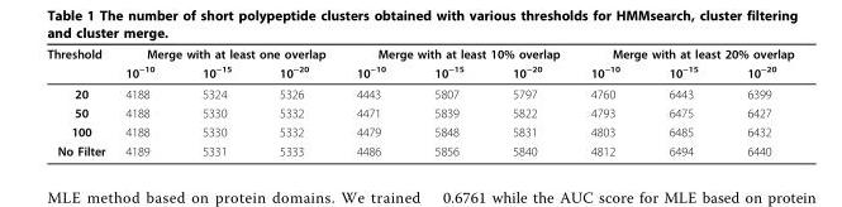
<table><thead><tr><td rowspan="2">Threshold</td><td colspan="3">Merge with at least one overlap</td><td colspan="3">Merge with at least 10% overlap</td><td colspan="3">Merge with at least 20% overlap</td></tr><tr><td>10<sup>−10</sup></td><td>10<sup>−15</sup></td><td>10<sup>−20</sup></td><td>10<sup>−10</sup></td><td>10<sup>−15</sup></td><td>10<sup>−20</sup></td><td>10<sup>−10</sup></td><td>10<sup>−15</sup></td><td>10<sup>−20</sup></td></tr></thead><tbody><tr><td>20</td><td>4188</td><td>5324</td><td>5326</td><td>4443</td><td>5807</td><td>5797</td><td>4760</td><td>6443</td><td>6399</td></tr><tr><td>50</td><td>4188</td><td>5330</td><td>5332</td><td>4471</td><td>5839</td><td>5822</td><td>4793</td><td>6475</td><td>6427</td></tr><tr><td>100</td><td>4188</td><td>5330</td><td>5332</td><td>4479</td><td>5848</td><td>5831</td><td>4803</td><td>6485</td><td>6432</td></tr><tr><td>No Filter</td><td>4189</td><td>5331</td><td>5333</td><td>4486</td><td>5856</td><td>5840</td><td>4812</td><td>6494</td><td>6440</td></tr></tbody></table>